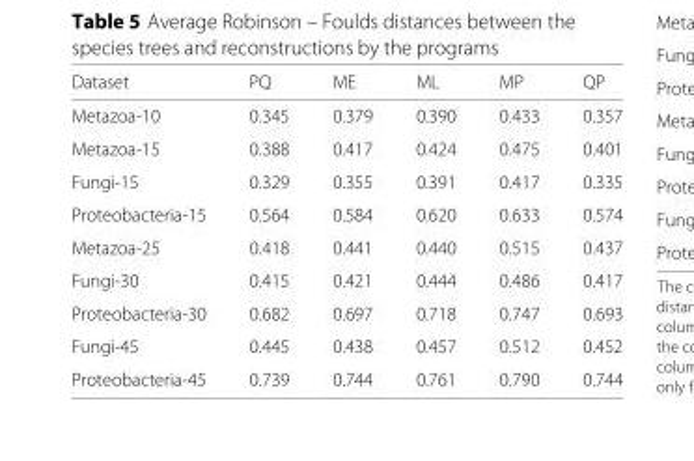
<table><thead><tr><td>Dataset</td><td>PQ</td><td>ME</td><td>ML</td><td>MP</td><td>QP</td></tr></thead><tbody><tr><td>Metazoa-10</td><td>0.345</td><td>0.379</td><td>0.390</td><td>0.433</td><td>0.357</td></tr><tr><td>Metazoa-15</td><td>0.388</td><td>0.417</td><td>0.424</td><td>0.475</td><td>0.401</td></tr><tr><td>Fungi-15</td><td>0.329</td><td>0.355</td><td>0.391</td><td>0.417</td><td>0.335</td></tr><tr><td>Proteobacteria-15</td><td>0.564</td><td>0.584</td><td>0.620</td><td>0.633</td><td>0.574</td></tr><tr><td>Metazoa-25</td><td>0.418</td><td>0.441</td><td>0.440</td><td>0.515</td><td>0.437</td></tr><tr><td>Fungi-30</td><td>0.415</td><td>0.421</td><td>0.444</td><td>0.486</td><td>0.417</td></tr><tr><td>Proteobacteria-30</td><td>0.682</td><td>0.697</td><td>0.718</td><td>0.747</td><td>0.693</td></tr><tr><td>Fungi-45</td><td>0.445</td><td>0.438</td><td>0.457</td><td>0.512</td><td>0.452</td></tr><tr><td>Proteobacteria-45</td><td>0.739</td><td>0.744</td><td>0.761</td><td>0.790</td><td>0.744</td></tr></tbody></table>